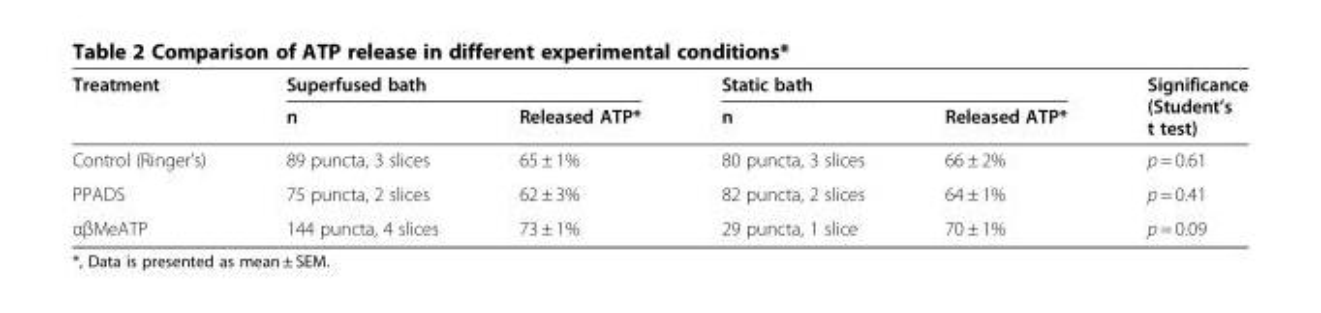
<table><thead><tr><td rowspan="2">Treatment</td><td colspan="2">Superfused bath</td><td colspan="2">Static bath</td><td rowspan="2">Significance (Student’s t test)</td></tr><tr><td>n</td><td>Released ATP*</td><td>n</td><td>Released ATP*</td></tr></thead><tbody><tr><td>Control (Ringer’s)</td><td>89 puncta, 3 slices</td><td>65 ± 1%</td><td>80 puncta, 3 slices</td><td>66 ± 2%</td><td>p = 0.61</td></tr><tr><td>PPADS</td><td>75 puncta, 2 slices</td><td>62 ± 3%</td><td>82 puncta, 2 slices</td><td>64 ± 1%</td><td>p = 0.41</td></tr><tr><td>αβMeATP</td><td>144 puncta, 4 slices</td><td>73 ± 1%</td><td>29 puncta, 1 slice</td><td>70 ± 1%</td><td>p = 0.09</td></tr></tbody></table>